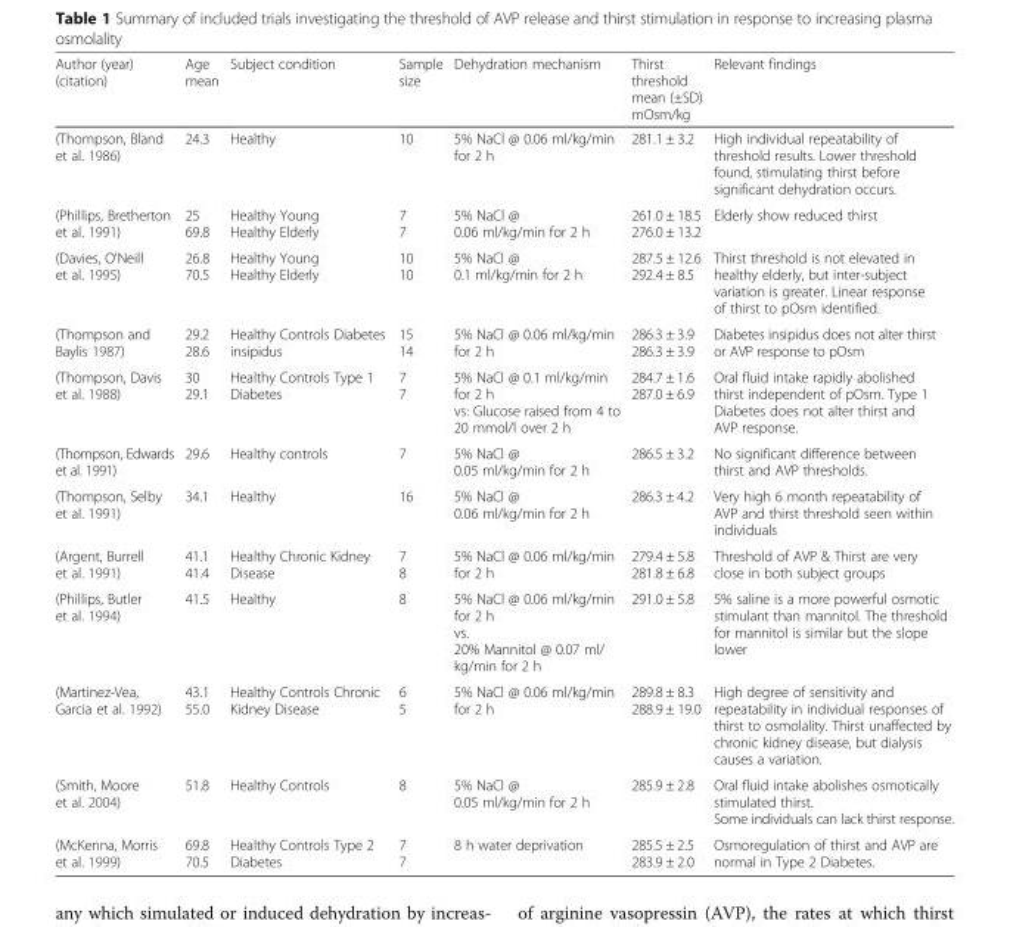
<table><thead><tr><td>Author (year) (citation)</td><td>Age mean</td><td>Subject condition</td><td>Sample size</td><td>Dehydration mechanism</td><td>Thirst threshold mean (±SD) mOsm/kg</td><td>Relevant findings</td></tr></thead><tbody><tr><td>(Thompson, Bland et al. 1986)</td><td>24.3</td><td>Healthy</td><td>10</td><td>5% NaCl @ 0.06 ml/kg/min for 2 h</td><td>281.1 ± 3.2</td><td>High individual repeatability of threshold results. Lower threshold found, stimulating thirst before significant dehydration occurs.</td></tr><tr><td>(Phillips, Bretherton et al. 1991)</td><td>25 69.8</td><td>Healthy Young Healthy Elderly</td><td>7 7</td><td>5% NaCl @ 0.06 ml/kg/min for 2 h</td><td>261.0 ± 18.5 276.0 ± 13.2</td><td>Elderly show reduced thirst</td></tr><tr><td>(Davies, O&#x27;Neill et al. 1995)</td><td>26.8 70.5</td><td>Healthy Young Healthy Elderly</td><td>10 10</td><td>5% NaCl @ 0.1 ml/kg/min for 2 h</td><td>287.5 ± 12.6 292.4 ± 8.5</td><td>Thirst threshold is not elevated in healthy elderly, but inter-subject variation is greater. Linear response of thirst to pOsm identified.</td></tr><tr><td>(Thompson and Baylis 1987)</td><td>29.2 28.6</td><td>Healthy Controls Diabetes insipidus</td><td>15 14</td><td>5% NaCl @ 0.06 ml/kg/min for 2 h</td><td>286.3 ± 3.9 286.3 ± 3.9</td><td>Diabetes insipidus does not alter thirst or AVP response to pOsm</td></tr><tr><td>(Thompson, Davis et al. 1988)</td><td>30 29.1</td><td>Healthy Controls Type 1 Diabetes</td><td>7 7</td><td>5% NaCl @ 0.1 ml/kg/min for 2 h vs: Glucose raised from 4 to 20 mmol/l over 2 h</td><td>284.7 ± 1.6 287.0 ± 6.9</td><td>Oral fluid intake rapidly abolished thirst independent of pOsm. Type 1 Diabetes does not alter thirst and AVP response.</td></tr><tr><td>(Thompson, Edwards et al. 1991)</td><td>29.6</td><td>Healthy controls</td><td>7</td><td>5% NaCl @ 0.05 ml/kg/min for 2 h</td><td>286.5 ± 3.2</td><td>No significant difference between thirst and AVP thresholds.</td></tr><tr><td>(Thompson, Selby et al. 1991)</td><td>34.1</td><td>Healthy</td><td>16</td><td>5% NaCl @ 0.06 ml/kg/min for 2 h</td><td>286.3 ± 4.2</td><td>Very high 6 month repeatability of AVP and thirst threshold seen within individuals</td></tr><tr><td>(Argent, Burrell et al. 1991)</td><td>41.1 41.4</td><td>Healthy Chronic Kidney Disease</td><td>7 8</td><td>5% NaCl @ 0.06 ml/kg/min for 2 h</td><td>279.4 ± 5.8 281.8 ± 6.8</td><td>Threshold of AVP &amp; Thirst are very close in both subject groups</td></tr><tr><td>(Phillips, Butler et al. 1994)</td><td>41.5</td><td>Healthy</td><td>8</td><td>5% NaCl @ 0.06 ml/kg/min for 2 h vs. 20% Mannitol @ 0.07 ml/ kg/min for 2 h</td><td>291.0 ± 5.8</td><td>5% saline is a more powerful osmotic stimulant than mannitol. The threshold for mannitol is similar but the slope lower</td></tr><tr><td>(Martinez-Vea, Garcia et al. 1992)</td><td>43.1 55.0</td><td>Healthy Controls Chronic Kidney Disease</td><td>6 5</td><td>5% NaCl @ 0.06 ml/kg/min for 2 h</td><td>289.8 ± 8.3 288.9 ± 19.0</td><td>High degree of sensitivity and repeatability in individual responses of thirst to osmolality. Thirst unaffected by chronic kidney disease, but dialysis causes a variation.</td></tr><tr><td>(Smith, Moore et al. 2004)</td><td>51.8</td><td>Healthy Controls</td><td>8</td><td>5% NaCl @ 0.05 ml/kg/min for 2 h</td><td>285.9 ± 2.8</td><td>Oral fluid intake abolishes osmotically stimulated thirst. Some individuals can lack thirst response.</td></tr><tr><td>(McKenna, Morris et al. 1999)</td><td>69.8 70.5</td><td>Healthy Controls Type 2 Diabetes</td><td>7 7</td><td>8 h water deprivation</td><td>285.5 ± 2.5 283.9 ± 2.0</td><td>Osmoregulation of thirst and AVP are normal in Type 2 Diabetes.</td></tr></tbody></table>